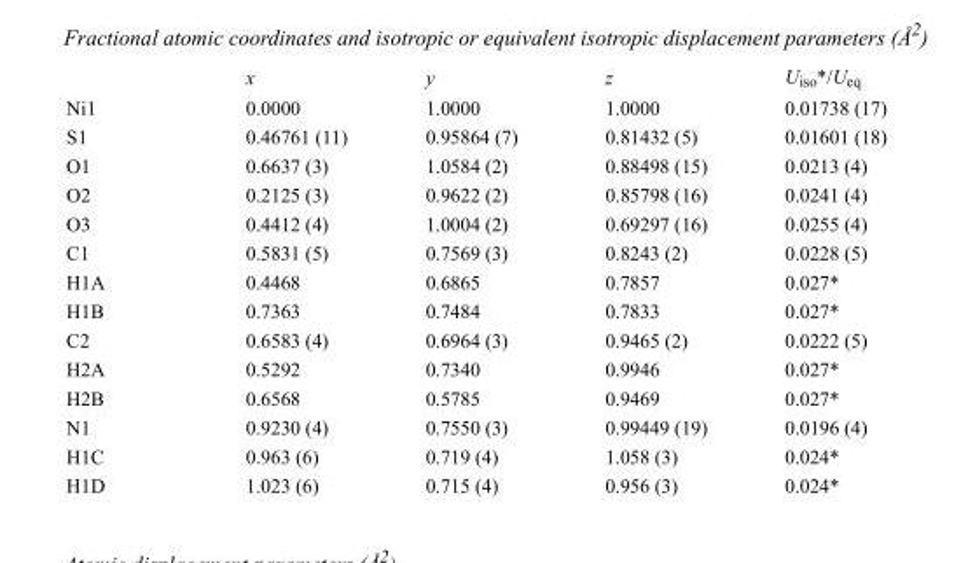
<table><thead><tr><td></td><td>x</td><td>y</td><td>z</td><td>U<sub>iso</sub>*/U<sub>eq</sub></td></tr></thead><tbody><tr><td>Ni1</td><td>0.0000</td><td>1.0000</td><td>1.0000</td><td>0.01738 (17)</td></tr><tr><td>S1</td><td>0.46761 (11)</td><td>0.95864 (7)</td><td>0.81432 (5)</td><td>0.01601 (18)</td></tr><tr><td>O1</td><td>0.6637 (3)</td><td>1.0584 (2)</td><td>0.88498 (15)</td><td>0.0213 (4)</td></tr><tr><td>O2</td><td>0.2125 (3)</td><td>0.9622 (2)</td><td>0.85798 (16)</td><td>0.0241 (4)</td></tr><tr><td>O3</td><td>0.4412 (4)</td><td>1.0004 (2)</td><td>0.69297 (16)</td><td>0.0255 (4)</td></tr><tr><td>C1</td><td>0.5831 (5)</td><td>0.7569 (3)</td><td>0.8243 (2)</td><td>0.0228 (5)</td></tr><tr><td>H1A</td><td>0.4468</td><td>0.6865</td><td>0.7857</td><td>0.027*</td></tr><tr><td>H1B</td><td>0.7363</td><td>0.7484</td><td>0.7833</td><td>0.027*</td></tr><tr><td>C2</td><td>0.6583 (4)</td><td>0.6964 (3)</td><td>0.9465 (2)</td><td>0.0222 (5)</td></tr><tr><td>H2A</td><td>0.5292</td><td>0.7340</td><td>0.9946</td><td>0.027*</td></tr><tr><td>H2B</td><td>0.6568</td><td>0.5785</td><td>0.9469</td><td>0.027*</td></tr><tr><td>N1</td><td>0.9230 (4)</td><td>0.7550 (3)</td><td>0.99449 (19)</td><td>0.0196 (4)</td></tr><tr><td>H1C</td><td>0.963 (6)</td><td>0.719 (4)</td><td>1.058 (3)</td><td>0.024*</td></tr><tr><td>H1D</td><td>1.023 (6)</td><td>0.715 (4)</td><td>0.956 (3)</td><td>0.024*</td></tr></tbody></table>